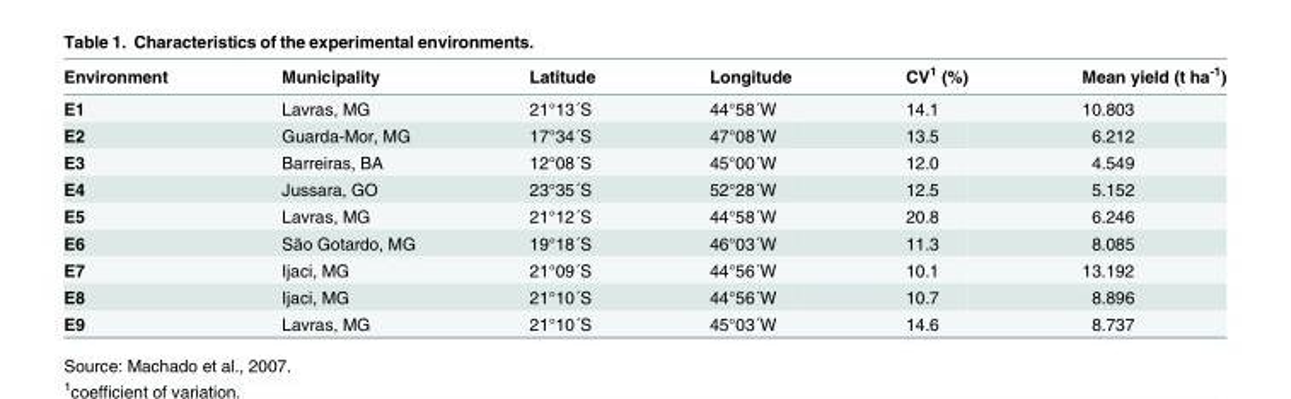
<table><thead><tr><td>Environment</td><td>Municipality</td><td>Latitude</td><td>Longitude</td><td>CV<sup>1</sup> (%)</td><td>Mean yield (t ha<sup>-1</sup>)</td></tr></thead><tbody><tr><td>E1</td><td>Lavras, MG</td><td>21°13´S</td><td>44°58´W</td><td>14.1</td><td>10.803</td></tr><tr><td>E2</td><td>Guarda-Mor, MG</td><td>17°34´S</td><td>47°08´W</td><td>13.5</td><td>6.212</td></tr><tr><td>E3</td><td>Barreiras, BA</td><td>12°08´S</td><td>45°00´W</td><td>12.0</td><td>4.549</td></tr><tr><td>E4</td><td>Jussara, GO</td><td>23°35´S</td><td>52°28´W</td><td>12.5</td><td>5.152</td></tr><tr><td>E5</td><td>Lavras, MG</td><td>21°12´S</td><td>44°58´W</td><td>20.8</td><td>6.246</td></tr><tr><td>E6</td><td>São Gotardo, MG</td><td>19°18´S</td><td>46°03´W</td><td>11.3</td><td>8.085</td></tr><tr><td>E7</td><td>Ijaci, MG</td><td>21°09´S</td><td>44°56´W</td><td>10.1</td><td>13.192</td></tr><tr><td>E8</td><td>Ijaci, MG</td><td>21°10´S</td><td>44°56´W</td><td>10.7</td><td>8.896</td></tr><tr><td>E9</td><td>Lavras, MG</td><td>21°10´S</td><td>45°03´W</td><td>14.6</td><td>8.737</td></tr></tbody></table>